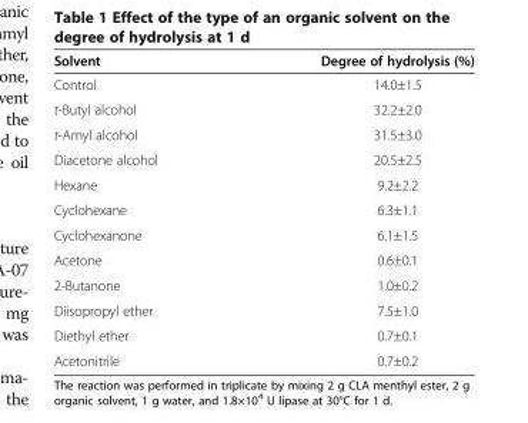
<table><thead><tr><td>Solvent</td><td>Degree of hydrolysis (%)</td></tr></thead><tbody><tr><td>Control</td><td>14.0±1.5</td></tr><tr><td>t-Butyl alcohol</td><td>32.2±2.0</td></tr><tr><td>t-Amyl alcohol</td><td>31.5±3.0</td></tr><tr><td>Diacetone alcohol</td><td>20.5±2.5</td></tr><tr><td>Hexane</td><td>9.2±2.2</td></tr><tr><td>Cyclohexane</td><td>6.3±1.1</td></tr><tr><td>Cyclohexanone</td><td>6.1±1.5</td></tr><tr><td>Acetone</td><td>0.6±0.1</td></tr><tr><td>2-Butanone</td><td>1.0±0.2</td></tr><tr><td>Diisopropyl ether</td><td>7.5±1.0</td></tr><tr><td>Diethyl ether</td><td>0.7±0.1</td></tr><tr><td>Acetonitrile</td><td>0.7±0.2</td></tr></tbody></table>